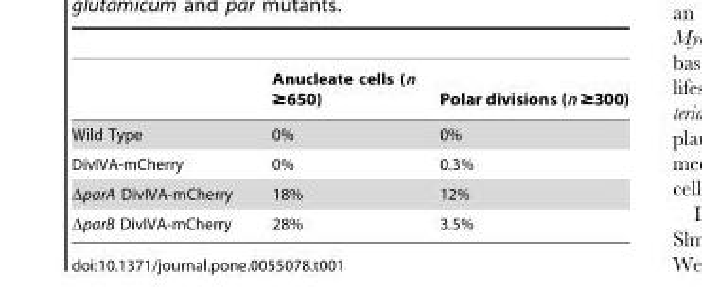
<table><thead><tr><td></td><td>Anucleate cells (n ≥650)</td><td>Polar divisions (n ≥300)</td></tr></thead><tbody><tr><td>Wild Type</td><td>0%</td><td>0%</td></tr><tr><td>DivIVA-mCherry</td><td>0%</td><td>0.3%</td></tr><tr><td>ΔparA DivIVA-mCherry</td><td>18%</td><td>12%</td></tr><tr><td>ΔparB DivIVA-mCherry</td><td>28%</td><td>3.5%</td></tr></tbody></table>